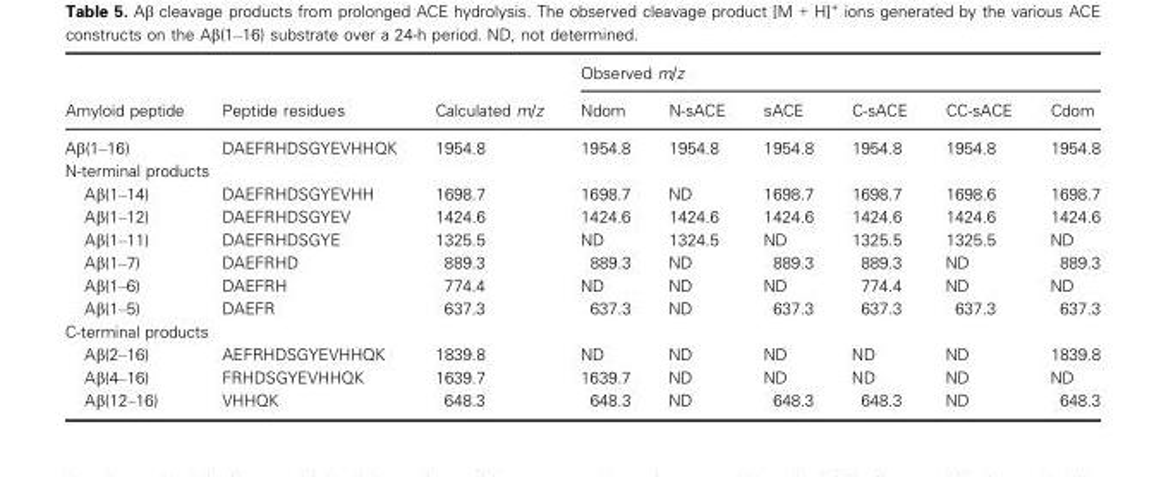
<table><thead><tr><td rowspan="2">Amyloid peptide</td><td rowspan="2">Peptide residues</td><td rowspan="2">Calculated m/z</td><td colspan="6">Observed m/z</td></tr><tr><td>Ndom</td><td>N-sACE</td><td>sACE</td><td>C-sACE</td><td>CC-sACE</td><td>Cdom</td></tr></thead><tbody><tr><td>Aβ(1–16)</td><td>DAEFRHDSGYEVHHQK</td><td>1954.8</td><td>1954.8</td><td>1954.8</td><td>1954.8</td><td>1954.8</td><td>1954.8</td><td>1954.8</td></tr><tr><td colspan="9">N-terminal products</td></tr><tr><td>Aβ(1–14)</td><td>DAEFRHDSGYEVHH</td><td>1698.7</td><td>1698.7</td><td>ND</td><td>1698.7</td><td>1698.7</td><td>1698.6</td><td>1698.7</td></tr><tr><td>Aβ(1–12)</td><td>DAEFRHDSGYEV</td><td>1424.6</td><td>1424.6</td><td>1424.6</td><td>1424.6</td><td>1424.6</td><td>1424.6</td><td>1424.6</td></tr><tr><td>Aβ(1–11)</td><td>DAEFRHDSGYE</td><td>1325.5</td><td>ND</td><td>1324.5</td><td>ND</td><td>1325.5</td><td>1325.5</td><td>ND</td></tr><tr><td>Aβ(1–7)</td><td>DAEFRHD</td><td>889.3</td><td>889.3</td><td>ND</td><td>889.3</td><td>889.3</td><td>ND</td><td>889.3</td></tr><tr><td>Aβ(1–6)</td><td>DAEFRH</td><td>774.4</td><td>ND</td><td>ND</td><td>ND</td><td>774.4</td><td>ND</td><td>ND</td></tr><tr><td>Aβ(1–5)</td><td>DAEFR</td><td>637.3</td><td>637.3</td><td>ND</td><td>637.3</td><td>637.3</td><td>637.3</td><td>637.3</td></tr><tr><td colspan="9">C-terminal products</td></tr><tr><td>Aβ(2–16)</td><td>AEFRHDSGYEVHHQK</td><td>1839.8</td><td>ND</td><td>ND</td><td>ND</td><td>ND</td><td>ND</td><td>1839.8</td></tr><tr><td>Aβ(4–16)</td><td>FRHDSGYEVHHQK</td><td>1639.7</td><td>1639.7</td><td>ND</td><td>ND</td><td>ND</td><td>ND</td><td>ND</td></tr><tr><td>Aβ(12–16)</td><td>VHHQK</td><td>648.3</td><td>648.3</td><td>ND</td><td>648.3</td><td>648.3</td><td>ND</td><td>648.3</td></tr></tbody></table>